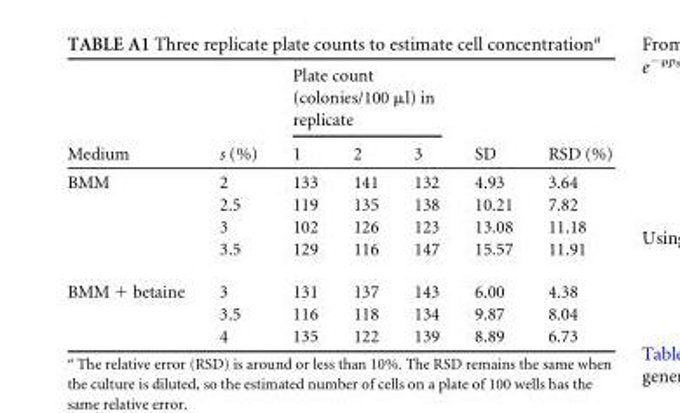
<table><thead><tr><td rowspan="2">Medium</td><td rowspan="2">s (%)</td><td colspan="3">Plate count (colonies/100 μl) in replicate</td><td rowspan="2">SD</td><td rowspan="2">RSD (%)</td></tr><tr><td>1</td><td>2</td><td>3</td></tr></thead><tbody><tr><td rowspan="4">BMM</td><td>2</td><td>133</td><td>141</td><td>132</td><td>4.93</td><td>3.64</td></tr><tr><td>2.5</td><td>119</td><td>135</td><td>138</td><td>10.21</td><td>7.82</td></tr><tr><td>3</td><td>102</td><td>126</td><td>123</td><td>13.08</td><td>11.18</td></tr><tr><td>3.5</td><td>129</td><td>116</td><td>147</td><td>15.57</td><td>11.91</td></tr><tr><td rowspan="3">BMM + betaine</td><td>3</td><td>131</td><td>137</td><td>143</td><td>6.00</td><td>4.38</td></tr><tr><td>3.5</td><td>116</td><td>118</td><td>134</td><td>9.87</td><td>8.04</td></tr><tr><td>4</td><td>135</td><td>122</td><td>139</td><td>8.89</td><td>6.73</td></tr></tbody></table>